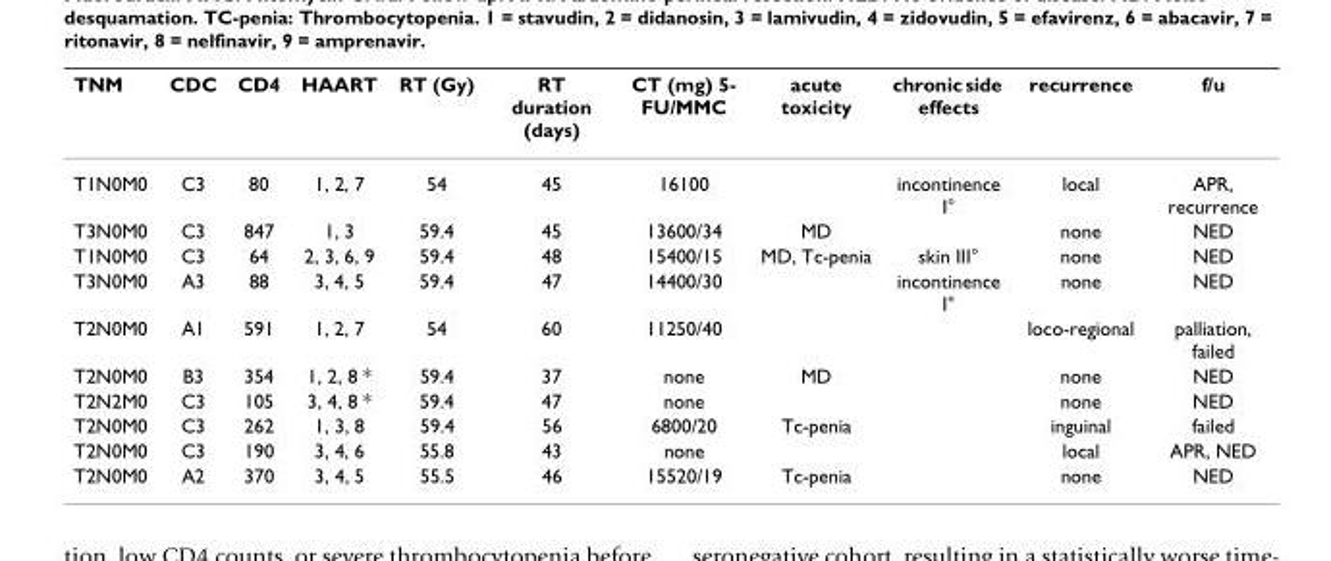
<table><thead><tr><td>TNM</td><td>CDC</td><td>CD4</td><td>HAART</td><td>RT (Gy)</td><td>RT duration (days)</td><td>CT (mg) 5- FU/MMC</td><td>acute toxicity</td><td>chronic side effects</td><td>recurrence</td><td>f/u</td></tr></thead><tbody><tr><td>T1N0M0</td><td>C3</td><td>80</td><td>1, 2, 7</td><td>54</td><td>45</td><td>16100</td><td></td><td>incontinence I°</td><td>local</td><td>APR, recurrence</td></tr><tr><td>T3N0M0</td><td>C3</td><td>847</td><td>1, 3</td><td>59.4</td><td>45</td><td>13600/34</td><td>MD</td><td></td><td>none</td><td>NED</td></tr><tr><td>T1N0M0</td><td>C3</td><td>64</td><td>2, 3, 6, 9</td><td>59.4</td><td>48</td><td>15400/15</td><td>MD, Tc-penia</td><td>skin III°</td><td>none</td><td>NED</td></tr><tr><td>T3N0M0</td><td>A3</td><td>88</td><td>3, 4, 5</td><td>59.4</td><td>47</td><td>14400/30</td><td></td><td>incontinence I°</td><td>none</td><td>NED</td></tr><tr><td>T2N0M0</td><td>A1</td><td>591</td><td>1, 2, 7</td><td>54</td><td>60</td><td>11250/40</td><td></td><td></td><td>loco-regional</td><td>palliation, failed</td></tr><tr><td>T2N0M0</td><td>B3</td><td>354</td><td>1, 2, 8 *</td><td>59.4</td><td>37</td><td>none</td><td>MD</td><td></td><td>none</td><td>NED</td></tr><tr><td>T2N2M0</td><td>C3</td><td>105</td><td>3, 4, 8 *</td><td>59.4</td><td>47</td><td>none</td><td></td><td></td><td>none</td><td>NED</td></tr><tr><td>T2N0M0</td><td>C3</td><td>262</td><td>1, 3, 8</td><td>59.4</td><td>56</td><td>6800/20</td><td>Tc-penia</td><td></td><td>inguinal</td><td>failed</td></tr><tr><td>T2N0M0</td><td>C3</td><td>190</td><td>3, 4, 6</td><td>55.8</td><td>43</td><td>none</td><td></td><td></td><td>local</td><td>APR, NED</td></tr><tr><td>T2N0M0</td><td>A2</td><td>370</td><td>3, 4, 5</td><td>55.5</td><td>46</td><td>15520/19</td><td>Tc-penia</td><td></td><td>none</td><td>NED</td></tr></tbody></table>